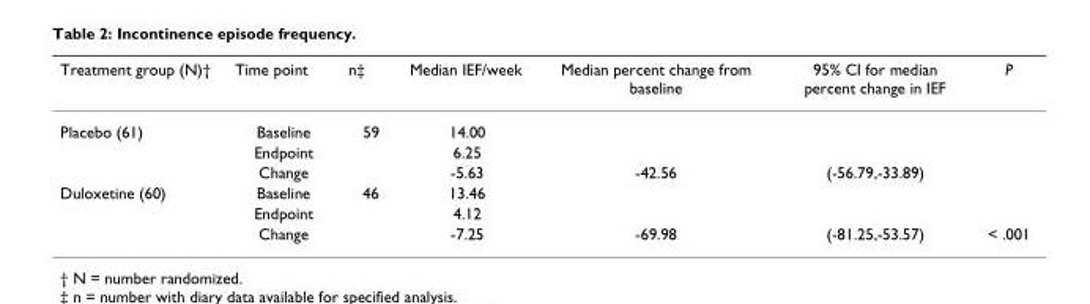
<table><thead><tr><td>Treatment group (N)†</td><td>Time point</td><td>n‡</td><td>Median IEF/week</td><td>Median percent change from baseline</td><td>95% CI for median percent change in IEF</td><td>P</td></tr></thead><tbody><tr><td rowspan="3">Placebo (61)</td><td>Baseline</td><td>59</td><td>14.00</td><td></td><td></td><td></td></tr><tr><td>Endpoint</td><td></td><td>6.25</td><td></td><td></td><td></td></tr><tr><td>Change</td><td></td><td>-5.63</td><td>-42.56</td><td>(-56.79,-33.89)</td><td></td></tr><tr><td rowspan="3">Duloxetine (60)</td><td>Baseline</td><td>46</td><td>13.46</td><td></td><td></td><td></td></tr><tr><td>Endpoint</td><td></td><td>4.12</td><td></td><td></td><td></td></tr><tr><td>Change</td><td></td><td>-7.25</td><td>-69.98</td><td>(-81.25,-53.57)</td><td>&lt; .001</td></tr></tbody></table>